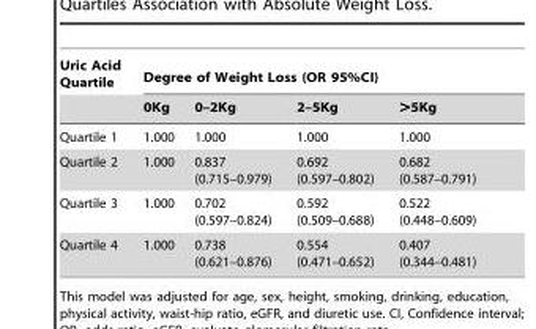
<table><thead><tr><td rowspan="2">Uric Acid Quartile</td><td colspan="4">Degree of Weight Loss (OR 95%CI)</td></tr><tr><td>0Kg</td><td>0–2Kg</td><td>2–5Kg</td><td>&gt;5Kg</td></tr></thead><tbody><tr><td>Quartile 1</td><td>1.000</td><td>1.000</td><td>1.000</td><td>1.000</td></tr><tr><td>Quartile 2</td><td>1.000</td><td>0.837 (0.715–0.979)</td><td>0.692 (0.597–0.802)</td><td>0.682 (0.587–0.791)</td></tr><tr><td>Quartile 3</td><td>1.000</td><td>0.702 (0.597–0.824)</td><td>0.592 (0.509–0.688)</td><td>0.522 (0.448–0.609)</td></tr><tr><td>Quartile 4</td><td>1.000</td><td>0.738 (0.621–0.876)</td><td>0.554 (0.471–0.652)</td><td>0.407 (0.344–0.481)</td></tr></tbody></table>